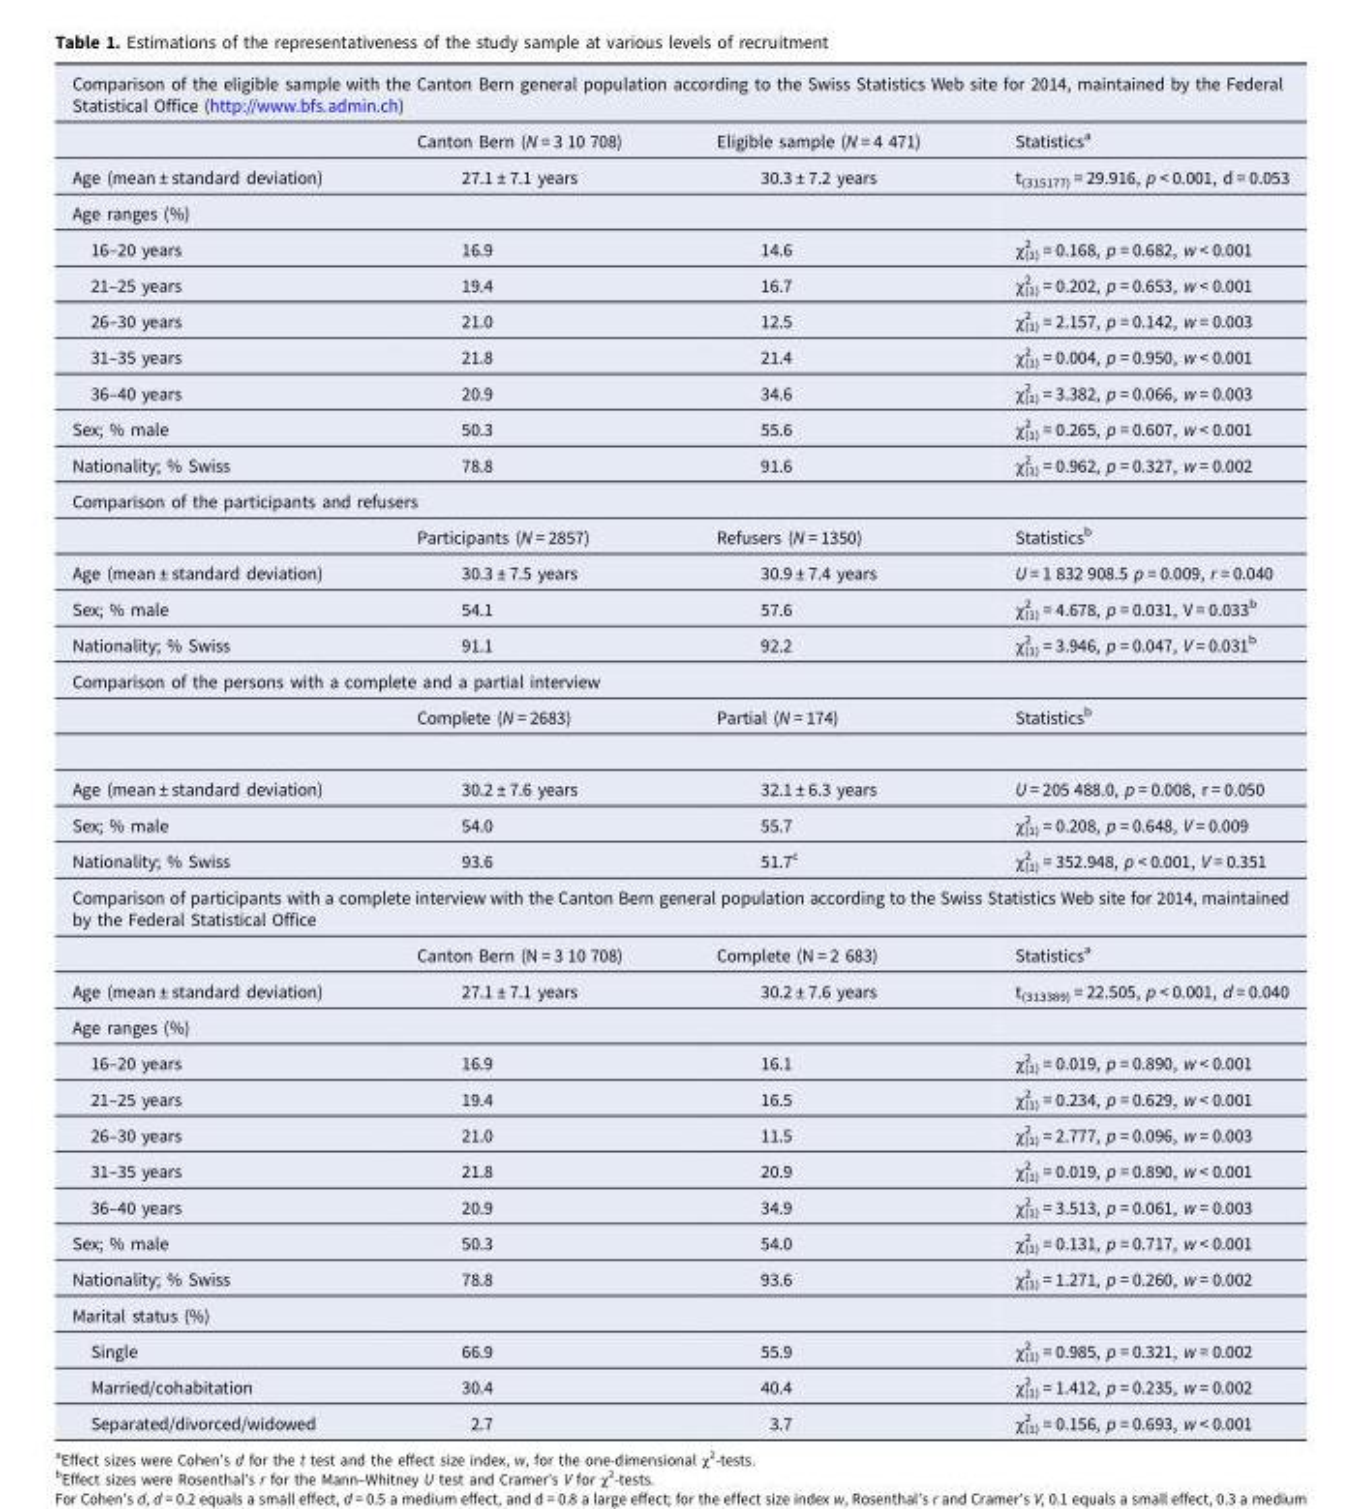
<table><tbody><tr><td colspan="4">Comparison of the eligible sample with the Canton Bern general population according to the Swiss Statistics Web site for 2014, maintained by the Federal Statistical Office (http://www.bfs.admin.ch)</td></tr><tr><td></td><td>Canton Bern (N = 3 10 708)</td><td>Eligible sample (N = 4 471)</td><td>Statistics<sup>a</sup></td></tr><tr><td>Age (mean ± standard deviation)</td><td>27.1 ± 7.1 years</td><td>30.3 ± 7.2 years</td><td>t<sub>(315177)</sub> = 29.916, p &lt; 0.001, d = 0.053</td></tr><tr><td colspan="4">Age ranges (%)</td></tr><tr><td>16–20 years</td><td>16.9</td><td>14.6</td><td>χ<sup>2</sup> <sub>(1)</sub> = 0.168, p = 0.682, w &lt; 0.001</td></tr><tr><td>21–25 years</td><td>19.4</td><td>16.7</td><td>χ<sup>2</sup> <sub>(1)</sub> = 0.202, p = 0.653, w &lt; 0.001</td></tr><tr><td>26–30 years</td><td>21.0</td><td>12.5</td><td>χ<sup>2</sup> <sub>(1)</sub> = 2.157, p = 0.142, w = 0.003</td></tr><tr><td>31–35 years</td><td>21.8</td><td>21.4</td><td>χ<sup>2</sup> <sub>(1)</sub> = 0.004, p = 0.950, w &lt; 0.001</td></tr><tr><td>36–40 years</td><td>20.9</td><td>34.6</td><td>χ<sup>2</sup> <sub>(1)</sub> = 3.382, p = 0.066, w = 0.003</td></tr><tr><td>Sex; % male</td><td>50.3</td><td>55.6</td><td>χ<sup>2</sup> <sub>(1)</sub> = 0.265, p = 0.607, w &lt; 0.001</td></tr><tr><td>Nationality; % Swiss</td><td>78.8</td><td>91.6</td><td>χ<sup>2</sup> <sub>(1)</sub> = 0.962, p = 0.327, w = 0.002</td></tr><tr><td colspan="4">Comparison of the participants and refusers</td></tr><tr><td></td><td>Participants (N = 2857)</td><td>Refusers (N = 1350)</td><td>Statistics<sup>b</sup></td></tr><tr><td>Age (mean ± standard deviation)</td><td>30.3 ± 7.5 years</td><td>30.9 ± 7.4 years</td><td>U = 1 832 908.5 p = 0.009, r = 0.040</td></tr><tr><td>Sex; % male</td><td>54.1</td><td>57.6</td><td>χ<sup>2</sup> <sub>(1)</sub> = 4.678, p = 0.031, V = 0.033<sup>b</sup></td></tr><tr><td>Nationality; % Swiss</td><td>91.1</td><td>92.2</td><td>χ<sup>2</sup> <sub>(1)</sub> = 3.946, p = 0.047, V = 0.031<sup>b</sup></td></tr><tr><td colspan="4">Comparison of the persons with a complete and a partial interview</td></tr><tr><td></td><td>Complete (N = 2683)</td><td>Partial (N = 174)</td><td>Statistics<sup>b</sup></td></tr><tr><td>Age (mean ± standard deviation)</td><td>30.2 ± 7.6 years</td><td>32.1 ± 6.3 years</td><td>U = 205 488.0, p = 0.008, r = 0.050</td></tr><tr><td>Sex; % male</td><td>54.0</td><td>55.7</td><td>χ<sup>2</sup> <sub>(1)</sub> = 0.208, p = 0.648, V = 0.009</td></tr><tr><td>Nationality; % Swiss</td><td>93.6</td><td>51.7<sup>c</sup></td><td>χ<sup>2</sup> <sub>(1)</sub> = 352.948, p &lt; 0.001, V = 0.351</td></tr><tr><td colspan="4">Comparison of participants with a complete interview with the Canton Bern general population according to the Swiss Statistics Web site for 2014, maintained by the Federal Statistical Office</td></tr><tr><td></td><td>Canton Bern (N = 3 10 708)</td><td>Complete (N = 2 683)</td><td>Statistics<sup>a</sup></td></tr><tr><td>Age (mean ± standard deviation)</td><td>27.1 ± 7.1 years</td><td>30.2 ± 7.6 years</td><td>t<sub>(313389)</sub> = 22.505, p &lt; 0.001, d = 0.040</td></tr><tr><td colspan="4">Age ranges (%)</td></tr><tr><td>16–20 years</td><td>16.9</td><td>16.1</td><td>χ<sup>2</sup> <sub>(1)</sub> = 0.019, p = 0.890, w &lt; 0.001</td></tr><tr><td>21–25 years</td><td>19.4</td><td>16.5</td><td>χ<sup>2</sup> <sub>(1)</sub> = 0.234, p = 0.629, w &lt; 0.001</td></tr><tr><td>26–30 years</td><td>21.0</td><td>11.5</td><td>χ<sup>2</sup> <sub>(1)</sub> = 2.777, p = 0.096, w = 0.003</td></tr><tr><td>31–35 years</td><td>21.8</td><td>20.9</td><td>χ<sup>2</sup> <sub>(1)</sub> = 0.019, p = 0.890, w &lt; 0.001</td></tr><tr><td>36–40 years</td><td>20.9</td><td>34.9</td><td>χ<sup>2</sup> <sub>(1)</sub> = 3.513, p = 0.061, w = 0.003</td></tr><tr><td>Sex; % male</td><td>50.3</td><td>54.0</td><td>χ<sup>2</sup> <sub>(1)</sub> = 0.131, p = 0.717, w &lt; 0.001</td></tr><tr><td>Nationality; % Swiss</td><td>78.8</td><td>93.6</td><td>χ<sup>2</sup> <sub>(1)</sub> = 1.271, p = 0.260, w = 0.002</td></tr><tr><td colspan="4">Marital status (%)</td></tr><tr><td>Single</td><td>66.9</td><td>55.9</td><td>χ<sup>2</sup> <sub>(1)</sub> = 0.985, p = 0.321, w = 0.002</td></tr><tr><td>Married/cohabitation</td><td>30.4</td><td>40.4</td><td>χ<sup>2</sup> <sub>(1)</sub> = 1.412, p = 0.235, w = 0.002</td></tr><tr><td>Separated/divorced/widowed</td><td>2.7</td><td>3.7</td><td>χ<sup>2</sup> <sub>(1)</sub> = 0.156, p = 0.693, w &lt; 0.001</td></tr></tbody></table>